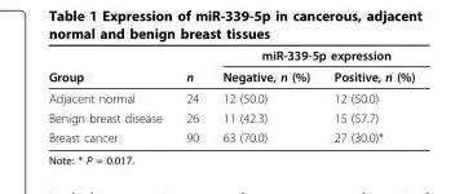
<table><thead><tr><td rowspan="2">Group</td><td rowspan="2">n</td><td colspan="2">miR-339-5p expression</td></tr><tr><td>Negative, n (%)</td><td>Positive, n (%)</td></tr></thead><tbody><tr><td>Adjacent normal</td><td>24</td><td>12 (50.0)</td><td>12 (50.0)</td></tr><tr><td>Benign breast disease</td><td>26</td><td>11 (42.3)</td><td>15 (57.7)</td></tr><tr><td>Breast cancer</td><td>90</td><td>63 (70.0)</td><td>27 (30.0)*</td></tr></tbody></table>